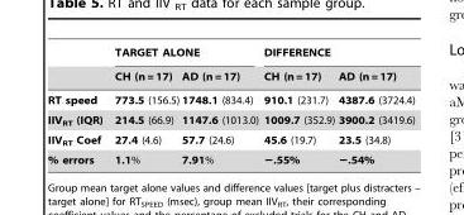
<table><thead><tr><td rowspan="2"></td><td colspan="2">TARGET ALONE</td><td colspan="2">DIFFERENCE</td></tr><tr><td>CH (n = 17)</td><td>AD (n = 17)</td><td>CH (n = 17)</td><td>AD (n = 17)</td></tr></thead><tbody><tr><td>RT speed</td><td>773.5 (156.5)</td><td>1748.1 (834.4)</td><td>910.1 (231.7)</td><td>4387.6 (3724.4)</td></tr><tr><td>IIV<sub>RT</sub> (IQR)</td><td>214.5 (66.9)</td><td>1147.6 (1013.0)</td><td>1009.7 (352.9)</td><td>3900.2 (3419.6)</td></tr><tr><td>IIV<sub>RT</sub> Coef</td><td>27.4 (4.6)</td><td>57.7 (24.6)</td><td>45.6 (19.7)</td><td>23.5 (34.8)</td></tr><tr><td>% errors</td><td>1.1%</td><td>7.91%</td><td>−.55%</td><td>−.54%</td></tr></tbody></table>